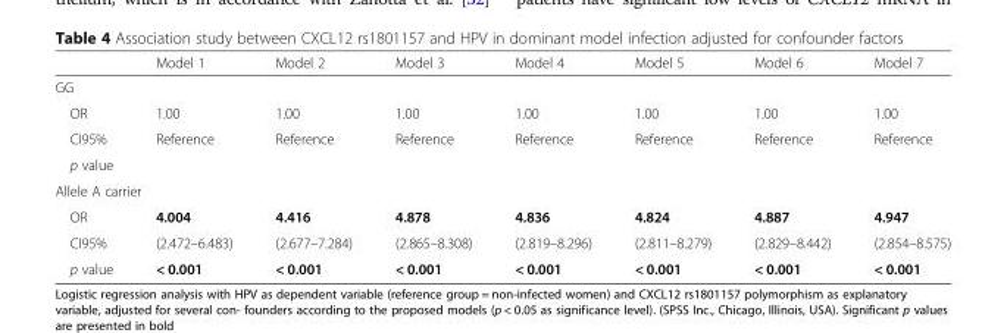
<table><thead><tr><td></td><td>Model 1</td><td>Model 2</td><td>Model 3</td><td>Model 4</td><td>Model 5</td><td>Model 6</td><td>Model 7</td></tr></thead><tbody><tr><td colspan="8">GG</td></tr><tr><td>OR</td><td>1.00</td><td>1.00</td><td>1.00</td><td>1.00</td><td>1.00</td><td>1.00</td><td>1.00</td></tr><tr><td>CI95%</td><td>Reference</td><td>Reference</td><td>Reference</td><td>Reference</td><td>Reference</td><td>Reference</td><td>Reference</td></tr><tr><td colspan="8">p value</td></tr><tr><td colspan="8">Allele A carrier</td></tr><tr><td>OR</td><td>4.004</td><td>4.416</td><td>4.878</td><td>4.836</td><td>4.824</td><td>4.887</td><td>4.947</td></tr><tr><td>CI95%</td><td>(2.472–6.483)</td><td>(2.677–7.284)</td><td>(2.865–8.308)</td><td>(2.819–8.296)</td><td>(2.811–8.279)</td><td>(2.829–8.442)</td><td>(2.854–8.575)</td></tr><tr><td>p value</td><td>&lt; 0.001</td><td>&lt; 0.001</td><td>&lt; 0.001</td><td>&lt; 0.001</td><td>&lt; 0.001</td><td>&lt; 0.001</td><td>&lt; 0.001</td></tr></tbody></table>